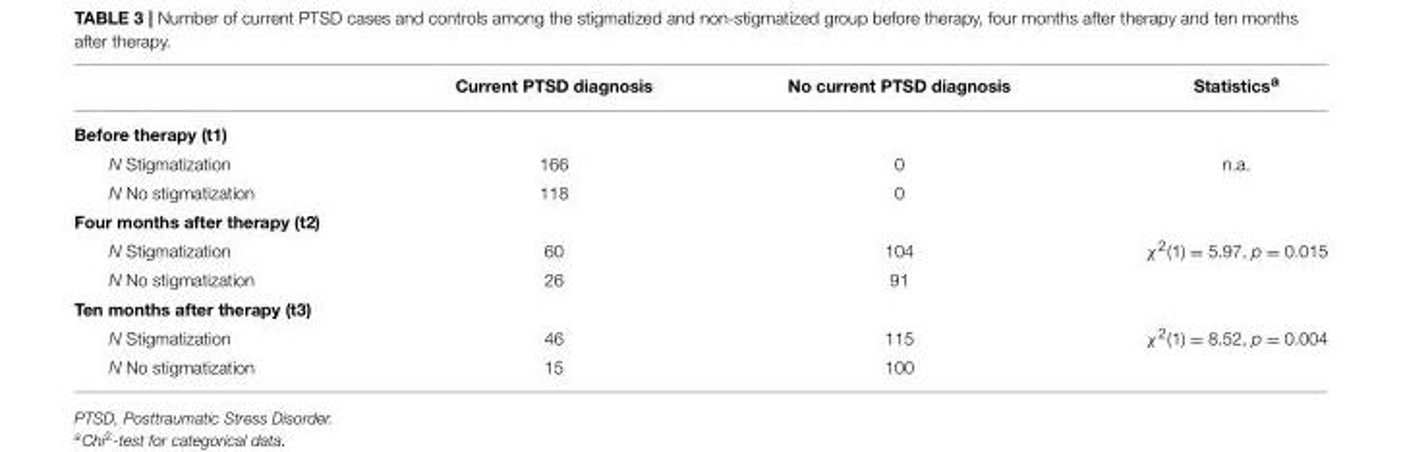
<table><thead><tr><td></td><td>Current PTSD diagnosis</td><td>No current PTSD diagnosis</td><td>Statistics<sup>a</sup></td></tr></thead><tbody><tr><td colspan="4">Before therapy (t1)</td></tr><tr><td>N Stigmatization</td><td>166</td><td>0</td><td>n.a.</td></tr><tr><td>N No stigmatization</td><td>118</td><td>0</td><td></td></tr><tr><td colspan="4">Four months after therapy (t2)</td></tr><tr><td>N Stigmatization</td><td>60</td><td>104</td><td>χ<sup>2</sup>(1) = 5.97, p = 0.015</td></tr><tr><td>N No stigmatization</td><td>26</td><td>91</td><td></td></tr><tr><td colspan="4">Ten months after therapy (t3)</td></tr><tr><td>N Stigmatization</td><td>46</td><td>115</td><td>χ<sup>2</sup>(1) = 8.52, p = 0.004</td></tr><tr><td>N No stigmatization</td><td>15</td><td>100</td><td></td></tr></tbody></table>